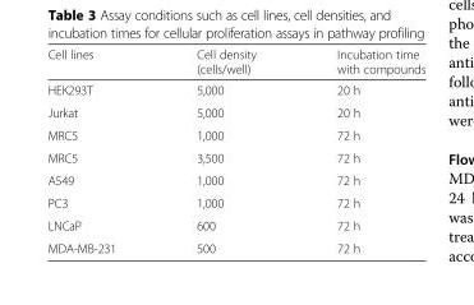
<table><thead><tr><td>Cell lines</td><td>Cell density (cells/well)</td><td>Incubation time with compounds</td></tr></thead><tbody><tr><td>HEK293T</td><td>5,000</td><td>20 h</td></tr><tr><td>Jurkat</td><td>5,000</td><td>20 h</td></tr><tr><td>MRC5</td><td>1,000</td><td>72 h</td></tr><tr><td>MRC5</td><td>3,500</td><td>72 h</td></tr><tr><td>A549</td><td>1,000</td><td>72 h</td></tr><tr><td>PC3</td><td>1,000</td><td>72 h</td></tr><tr><td>LNCaP</td><td>600</td><td>72 h</td></tr><tr><td>MDA-MB-231</td><td>500</td><td>72 h</td></tr></tbody></table>